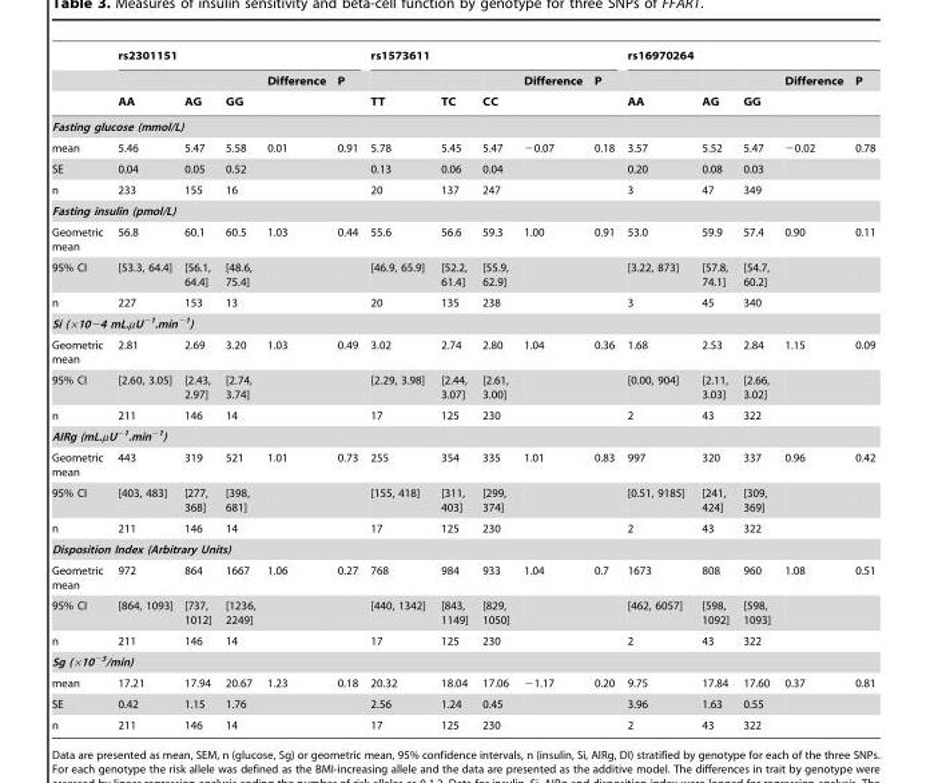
<table><thead><tr><td rowspan="3"></td><td colspan="5">rs2301151</td><td colspan="5">rs1573611</td><td colspan="5">rs16970264</td></tr><tr><td rowspan="2">AA</td><td rowspan="2">AG</td><td rowspan="2">GG</td><td rowspan="2">Difference</td><td rowspan="2">P</td><td rowspan="2">TT</td><td rowspan="2">TC</td><td rowspan="2">CC</td><td rowspan="2">Difference</td><td rowspan="2">P</td><td rowspan="2">AA</td><td rowspan="2">AG</td><td rowspan="2">GG</td><td rowspan="2">Difference</td><td rowspan="2">P</td></tr><tr></tr></thead><tbody><tr><td colspan="16">Fasting glucose (mmol/L)</td></tr><tr><td>mean</td><td>5.46</td><td>5.47</td><td>5.58</td><td>0.01</td><td>0.91</td><td>5.78</td><td>5.45</td><td>5.47</td><td>−0.07</td><td>0.18</td><td>3.57</td><td>5.52</td><td>5.47</td><td>−0.02</td><td>0.78</td></tr><tr><td>SE</td><td>0.04</td><td>0.05</td><td>0.52</td><td></td><td></td><td>0.13</td><td>0.06</td><td>0.04</td><td></td><td></td><td>0.20</td><td>0.08</td><td>0.03</td><td></td><td></td></tr><tr><td>n</td><td>233</td><td>155</td><td>16</td><td></td><td></td><td>20</td><td>137</td><td>247</td><td></td><td></td><td>3</td><td>47</td><td>349</td><td></td><td></td></tr><tr><td colspan="16">Fasting insulin (pmol/L)</td></tr><tr><td>Geometric mean</td><td>56.8</td><td>60.1</td><td>60.5</td><td>1.03</td><td>0.44</td><td>55.6</td><td>56.6</td><td>59.3</td><td>1.00</td><td>0.91</td><td>53.0</td><td>59.9</td><td>57.4</td><td>0.90</td><td>0.11</td></tr><tr><td>95% CI</td><td>[53.3, 64.4]</td><td>[56.1, 64.4]</td><td>[48.6, 75.4]</td><td></td><td></td><td>[46.9, 65.9]</td><td>[52.2, 61.4]</td><td>[55.9, 62.9]</td><td></td><td></td><td>[3.22, 873]</td><td>[57.8, 74.1]</td><td>[54.7, 60.2]</td><td></td><td></td></tr><tr><td>n</td><td>227</td><td>153</td><td>13</td><td></td><td></td><td>20</td><td>135</td><td>238</td><td></td><td></td><td>3</td><td>45</td><td>340</td><td></td><td></td></tr><tr><td colspan="16">Si (×10−4 mL.µU<sup>−1</sup>.min<sup>−1</sup>)</td></tr><tr><td>Geometric mean</td><td>2.81</td><td>2.69</td><td>3.20</td><td>1.03</td><td>0.49</td><td>3.02</td><td>2.74</td><td>2.80</td><td>1.04</td><td>0.36</td><td>1.68</td><td>2.53</td><td>2.84</td><td>1.15</td><td>0.09</td></tr><tr><td>95% CI</td><td>[2.60, 3.05]</td><td>[2.43, 2.97]</td><td>[2.74, 3.74]</td><td></td><td></td><td>[2.29, 3.98]</td><td>[2.44, 3.07]</td><td>[2.61, 3.00]</td><td></td><td></td><td>[0.00, 904]</td><td>[2.11, 3.03]</td><td>[2.66, 3.02]</td><td></td><td></td></tr><tr><td>n</td><td>211</td><td>146</td><td>14</td><td></td><td></td><td>17</td><td>125</td><td>230</td><td></td><td></td><td>2</td><td>43</td><td>322</td><td></td><td></td></tr><tr><td colspan="16">AIRg (mL.µU<sup>−1</sup>.min<sup>−1</sup>)</td></tr><tr><td>Geometric mean</td><td>443</td><td>319</td><td>521</td><td>1.01</td><td>0.73</td><td>255</td><td>354</td><td>335</td><td>1.01</td><td>0.83</td><td>997</td><td>320</td><td>337</td><td>0.96</td><td>0.42</td></tr><tr><td>95% CI</td><td>[403, 483]</td><td>[277, 368]</td><td>[398, 681]</td><td></td><td></td><td>[155, 418]</td><td>[311, 403]</td><td>[299, 374]</td><td></td><td></td><td>[0.51, 9185]</td><td>[241, 424]</td><td>[309, 369]</td><td></td><td></td></tr><tr><td>n</td><td>211</td><td>146</td><td>14</td><td></td><td></td><td>17</td><td>125</td><td>230</td><td></td><td></td><td>2</td><td>43</td><td>322</td><td></td><td></td></tr><tr><td colspan="16">Disposition Index (Arbitrary Units)</td></tr><tr><td>Geometric mean</td><td>972</td><td>864</td><td>1667</td><td>1.06</td><td>0.27</td><td>768</td><td>984</td><td>933</td><td>1.04</td><td>0.7</td><td>1673</td><td>808</td><td>960</td><td>1.08</td><td>0.51</td></tr><tr><td>95% CI</td><td>[864, 1093]</td><td>[737, 1012]</td><td>[1236, 2249]</td><td></td><td></td><td>[440, 1342]</td><td>[843, 1149]</td><td>[829, 1050]</td><td></td><td></td><td>[462, 6057]</td><td>[598, 1092]</td><td>[598, 1093]</td><td></td><td></td></tr><tr><td>n</td><td>211</td><td>146</td><td>14</td><td></td><td></td><td>17</td><td>125</td><td>230</td><td></td><td></td><td>2</td><td>43</td><td>322</td><td></td><td></td></tr><tr><td colspan="16">Sg (×10<sup>−3</sup>/min)</td></tr><tr><td>mean</td><td>17.21</td><td>17.94</td><td>20.67</td><td>1.23</td><td>0.18</td><td>20.32</td><td>18.04</td><td>17.06</td><td>−1.17</td><td>0.20</td><td>9.75</td><td>17.84</td><td>17.60</td><td>0.37</td><td>0.81</td></tr><tr><td>SE</td><td>0.42</td><td>1.15</td><td>1.76</td><td></td><td></td><td>2.56</td><td>1.24</td><td>0.45</td><td></td><td></td><td>3.96</td><td>1.63</td><td>0.55</td><td></td><td></td></tr><tr><td>n</td><td>211</td><td>146</td><td>14</td><td></td><td></td><td>17</td><td>125</td><td>230</td><td></td><td></td><td>2</td><td>43</td><td>322</td><td></td><td></td></tr></tbody></table>